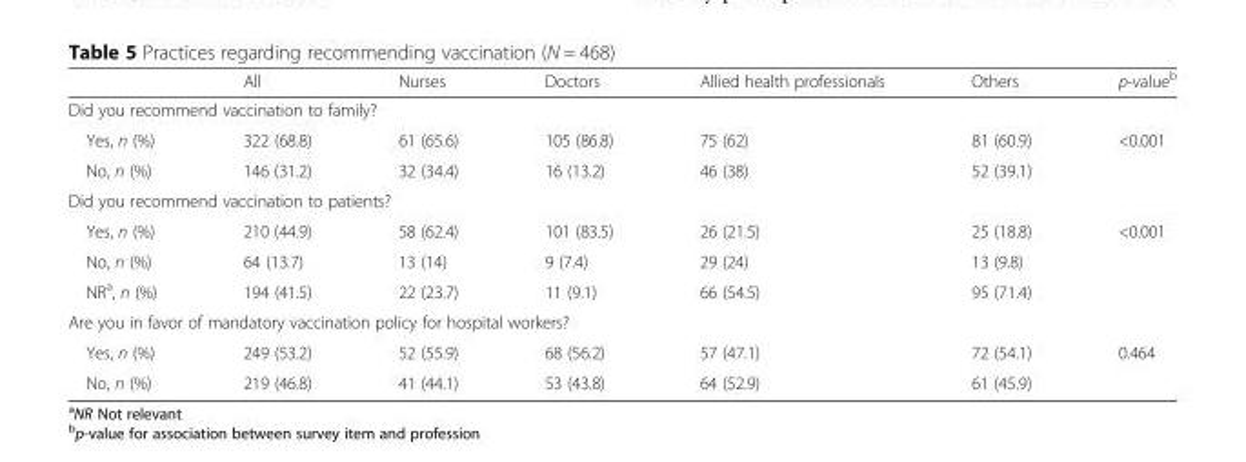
<table><thead><tr><td></td><td>All</td><td>Nurses</td><td>Doctors</td><td>Allied health professionals</td><td>Others</td><td>p-value<sup>b</sup></td></tr></thead><tbody><tr><td colspan="7">Did you recommend vaccination to family?</td></tr><tr><td>Yes, n (%)</td><td>322 (68.8)</td><td>61 (65.6)</td><td>105 (86.8)</td><td>75 (62)</td><td>81 (60.9)</td><td rowspan="2">&lt;0.001</td></tr><tr><td>No, n (%)</td><td>146 (31.2)</td><td>32 (34.4)</td><td>16 (13.2)</td><td>46 (38)</td><td>52 (39.1)</td></tr><tr><td colspan="7">Did you recommend vaccination to patients?</td></tr><tr><td>Yes, n (%)</td><td>210 (44.9)</td><td>58 (62.4)</td><td>101 (83.5)</td><td>26 (21.5)</td><td>25 (18.8)</td><td rowspan="2">&lt;0.001</td></tr><tr><td>No, n (%)</td><td>64 (13.7)</td><td>13 (14)</td><td>9 (7.4)</td><td>29 (24)</td><td>13 (9.8)</td></tr><tr><td>NR<sup>a</sup>, n (%)</td><td>194 (41.5)</td><td>22 (23.7)</td><td>11 (9.1)</td><td>66 (54.5)</td><td>95 (71.4)</td><td></td></tr><tr><td colspan="7">Are you in favor of mandatory vaccination policy for hospital workers?</td></tr><tr><td>Yes, n (%)</td><td>249 (53.2)</td><td>52 (55.9)</td><td>68 (56.2)</td><td>57 (47.1)</td><td>72 (54.1)</td><td rowspan="2">0.464</td></tr><tr><td>No, n (%)</td><td>219 (46.8)</td><td>41 (44.1)</td><td>53 (43.8)</td><td>64 (52.9)</td><td>61 (45.9)</td></tr></tbody></table>